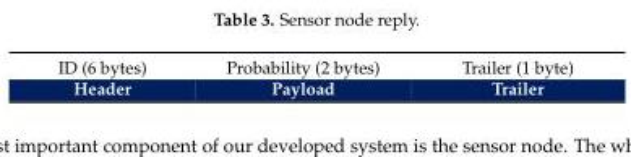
<table><tbody><tr><td>ID (6 bytes)</td><td>Probability (2 bytes)</td><td>Trailer (1 byte)</td></tr><tr><td>Header</td><td>Payload</td><td>Trailer</td></tr></tbody></table>